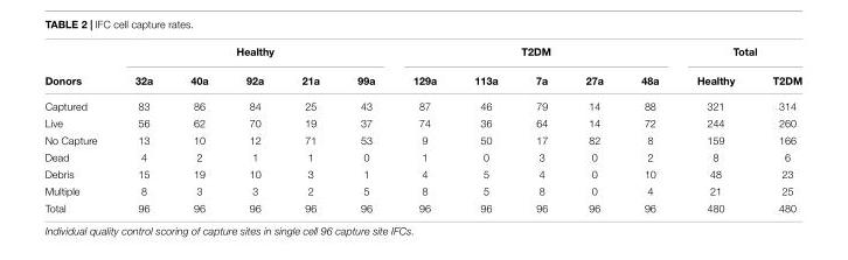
<table><thead><tr><td rowspan="2">Donors</td><td colspan="5">Healthy</td><td colspan="5">T2DM</td><td colspan="2">Total</td></tr><tr><td>32a</td><td>40a</td><td>92a</td><td>21a</td><td>99a</td><td>129a</td><td>113a</td><td>7a</td><td>27a</td><td>48a</td><td>Healthy</td><td>T2DM</td></tr></thead><tbody><tr><td>Captured</td><td>83</td><td>86</td><td>84</td><td>25</td><td>43</td><td>87</td><td>46</td><td>79</td><td>14</td><td>88</td><td>321</td><td>314</td></tr><tr><td>Live</td><td>56</td><td>62</td><td>70</td><td>19</td><td>37</td><td>74</td><td>36</td><td>64</td><td>14</td><td>72</td><td>244</td><td>260</td></tr><tr><td>No Capture</td><td>13</td><td>10</td><td>12</td><td>71</td><td>53</td><td>9</td><td>50</td><td>17</td><td>82</td><td>8</td><td>159</td><td>166</td></tr><tr><td>Dead</td><td>4</td><td>2</td><td>1</td><td>1</td><td>0</td><td>1</td><td>0</td><td>3</td><td>0</td><td>2</td><td>8</td><td>6</td></tr><tr><td>Debris</td><td>15</td><td>19</td><td>10</td><td>3</td><td>1</td><td>4</td><td>5</td><td>4</td><td>0</td><td>10</td><td>48</td><td>23</td></tr><tr><td>Multiple</td><td>8</td><td>3</td><td>3</td><td>2</td><td>5</td><td>8</td><td>5</td><td>8</td><td>0</td><td>4</td><td>21</td><td>25</td></tr><tr><td>Total</td><td>96</td><td>96</td><td>96</td><td>96</td><td>96</td><td>96</td><td>96</td><td>96</td><td>96</td><td>96</td><td>480</td><td>480</td></tr></tbody></table>